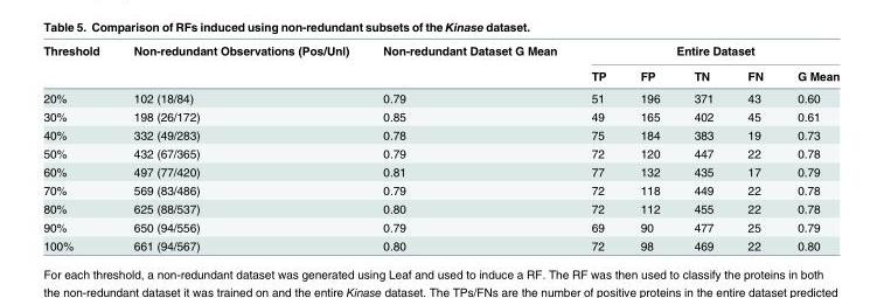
<table><thead><tr><td rowspan="2">Threshold</td><td rowspan="2">Non-redundant Observations (Pos/Unl)</td><td rowspan="2">Non-redundant Dataset G Mean</td><td colspan="5">Entire Dataset</td></tr><tr><td>TP</td><td>FP</td><td>TN</td><td>FN</td><td>G Mean</td></tr></thead><tbody><tr><td>20%</td><td>102 (18/84)</td><td>0.79</td><td>51</td><td>196</td><td>371</td><td>43</td><td>0.60</td></tr><tr><td>30%</td><td>198 (26/172)</td><td>0.85</td><td>49</td><td>165</td><td>402</td><td>45</td><td>0.61</td></tr><tr><td>40%</td><td>332 (49/283)</td><td>0.78</td><td>75</td><td>184</td><td>383</td><td>19</td><td>0.73</td></tr><tr><td>50%</td><td>432 (67/365)</td><td>0.79</td><td>72</td><td>120</td><td>447</td><td>22</td><td>0.78</td></tr><tr><td>60%</td><td>497 (77/420)</td><td>0.81</td><td>77</td><td>132</td><td>435</td><td>17</td><td>0.79</td></tr><tr><td>70%</td><td>569 (83/486)</td><td>0.79</td><td>72</td><td>118</td><td>449</td><td>22</td><td>0.78</td></tr><tr><td>80%</td><td>625 (88/537)</td><td>0.80</td><td>72</td><td>112</td><td>455</td><td>22</td><td>0.78</td></tr><tr><td>90%</td><td>650 (94/556)</td><td>0.79</td><td>69</td><td>90</td><td>477</td><td>25</td><td>0.79</td></tr><tr><td>100%</td><td>661 (94/567)</td><td>0.80</td><td>72</td><td>98</td><td>469</td><td>22</td><td>0.80</td></tr></tbody></table>